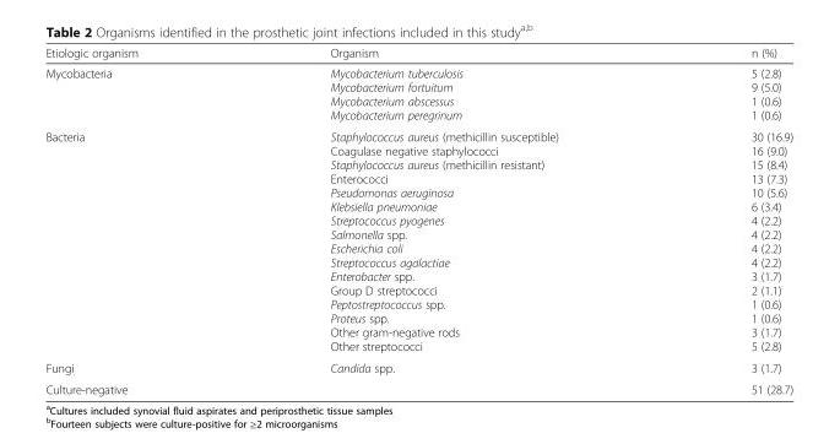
<table><thead><tr><td>Etiologic organism</td><td>Organism</td><td>n (%)</td></tr></thead><tbody><tr><td>Mycobacteria</td><td>Mycobacterium tuberculosis Mycobacterium fortuitum Mycobacterium abscessus Mycobacterium peregrinum</td><td>5 (2.8) 9 (5.0) 1 (0.6) 1 (0.6)</td></tr><tr><td>Bacteria</td><td>Staphylococcus aureus (methicillin susceptible) Coagulase negative staphylococci Staphylococcus aureus (methicillin resistant) Enterococci Pseudomonas aeruginosa Klebsiella pneumoniae Streptococcus pyogenes Salmonella spp. Escherichia coli Streptococcus agalactiae Enterobacter spp. Group D streptococci Peptostreptococcus spp. Proteus spp. Other gram-negative rods Other streptococci</td><td>30 (16.9) 16 (9.0) 15 (8.4) 13 (7.3) 10 (5.6) 6 (3.4) 4 (2.2) 4 (2.2) 4 (2.2) 4 (2.2) 3 (1.7) 2 (1.1) 1 (0.6) 1 (0.6) 3 (1.7) 5 (2.8)</td></tr><tr><td>Fungi</td><td>Candida spp.</td><td>3 (1.7)</td></tr><tr><td>Culture-negative</td><td></td><td>51 (28.7)</td></tr></tbody></table>